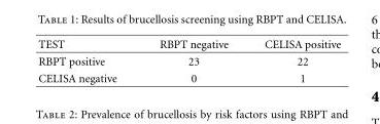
<table><thead><tr><td>TEST</td><td>RBPT negative</td><td>CELISA positive</td></tr></thead><tbody><tr><td>RBPT positive</td><td>23</td><td>22</td></tr><tr><td>CELISA negative</td><td>0</td><td>1</td></tr></tbody></table>